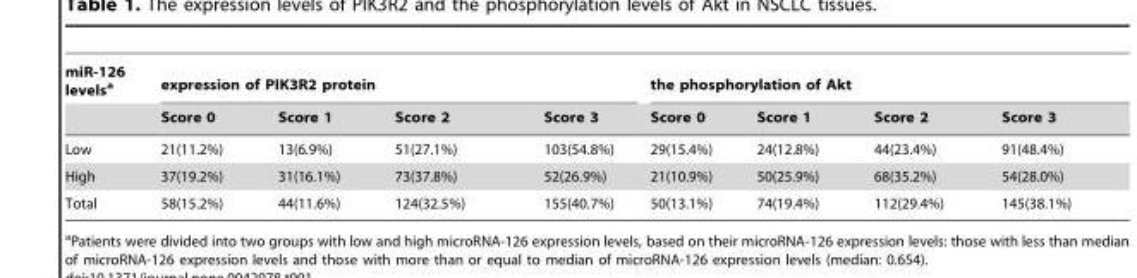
<table><thead><tr><td rowspan="2">miR-126 levels<sup>a</sup></td><td colspan="4">expression of PIK3R2 protein</td><td colspan="4">the phosphorylation of Akt</td></tr><tr><td>Score 0</td><td>Score 1</td><td>Score 2</td><td>Score 3</td><td>Score 0</td><td>Score 1</td><td>Score 2</td><td>Score 3</td></tr></thead><tbody><tr><td>Low</td><td>21(11.2%)</td><td>13(6.9%)</td><td>51(27.1%)</td><td>103(54.8%)</td><td>29(15.4%)</td><td>24(12.8%)</td><td>44(23.4%)</td><td>91(48.4%)</td></tr><tr><td>High</td><td>37(19.2%)</td><td>31(16.1%)</td><td>73(37.8%)</td><td>52(26.9%)</td><td>21(10.9%)</td><td>50(25.9%)</td><td>68(35.2%)</td><td>54(28.0%)</td></tr><tr><td>Total</td><td>58(15.2%)</td><td>44(11.6%)</td><td>124(32.5%)</td><td>155(40.7%)</td><td>50(13.1%)</td><td>74(19.4%)</td><td>112(29.4%)</td><td>145(38.1%)</td></tr></tbody></table>